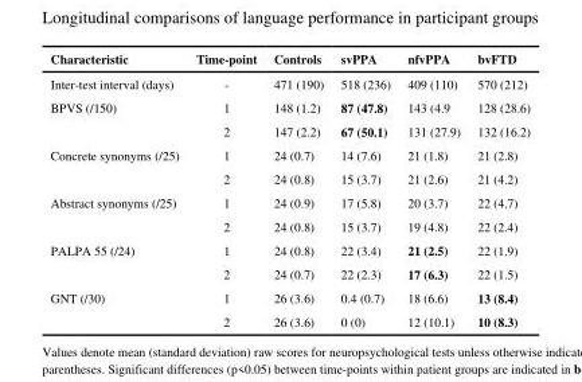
<table><thead><tr><td>Characteristic</td><td>Time-point</td><td>Controls</td><td>svPPA</td><td>nfvPPA</td><td>bvFTD</td></tr></thead><tbody><tr><td>Inter-test interval (days)</td><td>-</td><td>471 (190)</td><td>518 (236)</td><td>409 (110)</td><td>570 (212)</td></tr><tr><td rowspan="2">BPVS (/150)</td><td>1</td><td>148 (1.2)</td><td>87 (47.8)</td><td>143 (4.9</td><td>128 (28.6)</td></tr><tr><td>2</td><td>147 (2.2)</td><td>67 (50.1)</td><td>131 (27.9)</td><td>132 (16.2)</td></tr><tr><td rowspan="2">Concrete synonyms (/25)</td><td>1</td><td>24 (0.7)</td><td>14 (7.6)</td><td>21 (1.8)</td><td>21 (2.8)</td></tr><tr><td>2</td><td>24 (0.8)</td><td>15 (3.7)</td><td>21 (2.6)</td><td>21 (4.2)</td></tr><tr><td rowspan="2">Abstract synonyms (/25)</td><td>1</td><td>24 (0.9)</td><td>17 (5.8)</td><td>20 (3.7)</td><td>22 (4.7)</td></tr><tr><td>2</td><td>24 (0.8)</td><td>15 (3.7)</td><td>19 (4.8)</td><td>22 (2.4)</td></tr><tr><td rowspan="2">PALPA 55 (/24)</td><td>1</td><td>24 (0.8)</td><td>22 (3.4)</td><td>21 (2.5)</td><td>22 (1.9)</td></tr><tr><td>2</td><td>24 (0.7)</td><td>22 (2.3)</td><td>17 (6.3)</td><td>22 (1.5)</td></tr><tr><td rowspan="2">GNT (/30)</td><td>1</td><td>26 (3.6)</td><td>0.4 (0.7)</td><td>18 (6.6)</td><td>13 (8.4)</td></tr><tr><td>2</td><td>26 (3.6)</td><td>0 (0)</td><td>12 (10.1)</td><td>10 (8.3)</td></tr></tbody></table>